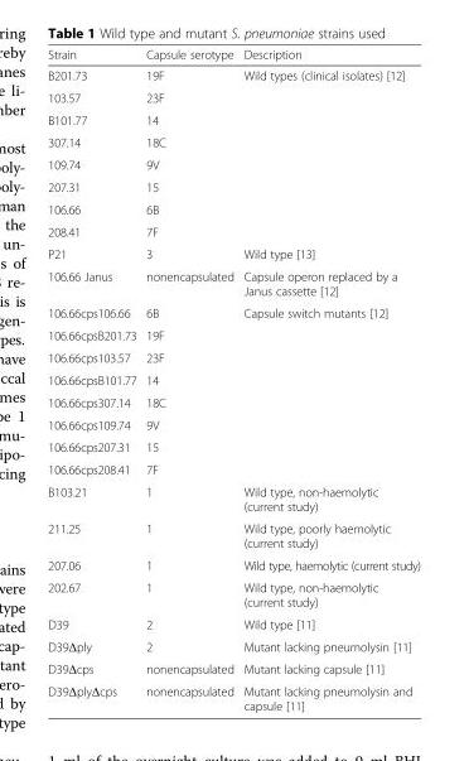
<table><thead><tr><td>Strain</td><td>Capsule serotype</td><td>Description</td></tr></thead><tbody><tr><td>B201.73</td><td>19F</td><td rowspan="8">Wild types (clinical isolates) [12]</td></tr><tr><td>103.57</td><td>23F</td></tr><tr><td>B101.77</td><td>14</td></tr><tr><td>307.14</td><td>18C</td></tr><tr><td>109.74</td><td>9V</td></tr><tr><td>207.31</td><td>15</td></tr><tr><td>106.66</td><td>6B</td></tr><tr><td>208.41</td><td>7F</td></tr><tr><td>P21</td><td>3</td><td>Wild type [13]</td></tr><tr><td>106.66 Janus</td><td>nonencapsulated</td><td>Capsule operon replaced by a Janus cassette [12]</td></tr><tr><td>106.66cps106.66</td><td>6B</td><td rowspan="8">Capsule switch mutants [12]</td></tr><tr><td>106.66cpsB201.73</td><td>19F</td></tr><tr><td>106.66cps103.57</td><td>23F</td></tr><tr><td>106.66cpsB101.77</td><td>14</td></tr><tr><td>106.66cps307.14</td><td>18C</td></tr><tr><td>106.66cps109.74</td><td>9V</td></tr><tr><td>106.66cps207.31</td><td>15</td></tr><tr><td>106.66cps208.41</td><td>7F</td></tr><tr><td>B103.21</td><td>1</td><td>Wild type, non-haemolytic (current study)</td></tr><tr><td>211.25</td><td>1</td><td>Wild type, poorly haemolytic (current study)</td></tr><tr><td>207.06</td><td>1</td><td>Wild type, haemolytic (current study)</td></tr><tr><td>202.67</td><td>1</td><td>Wild type, non-haemolytic (current study)</td></tr><tr><td>D39</td><td>2</td><td>Wild type [11]</td></tr><tr><td>D39Δply</td><td>2</td><td>Mutant lacking pneumolysin [11]</td></tr><tr><td>D39Δcps</td><td>nonencapsulated</td><td>Mutant lacking capsule [11]</td></tr><tr><td>D39ΔplyΔcps</td><td>nonencapsulated</td><td>Mutant lacking pneumolysin and capsule [11]</td></tr></tbody></table>